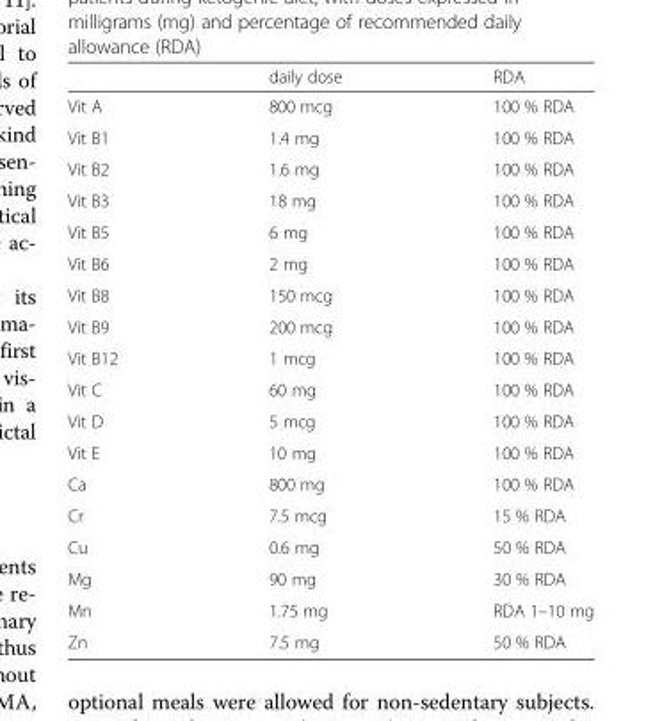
<table><thead><tr><td></td><td>daily dose</td><td>RDA</td></tr></thead><tbody><tr><td>Vit A</td><td>800 mcg</td><td>100 % RDA</td></tr><tr><td>Vit B1</td><td>1.4 mg</td><td>100 % RDA</td></tr><tr><td>Vit B2</td><td>1.6 mg</td><td>100 % RDA</td></tr><tr><td>Vit B3</td><td>18 mg</td><td>100 % RDA</td></tr><tr><td>Vit B5</td><td>6 mg</td><td>100 % RDA</td></tr><tr><td>Vit B6</td><td>2 mg</td><td>100 % RDA</td></tr><tr><td>Vit B8</td><td>150 mcg</td><td>100 % RDA</td></tr><tr><td>Vit B9</td><td>200 mcg</td><td>100 % RDA</td></tr><tr><td>Vit B12</td><td>1 mcg</td><td>100 % RDA</td></tr><tr><td>Vit C</td><td>60 mg</td><td>100 % RDA</td></tr><tr><td>Vit D</td><td>5 mcg</td><td>100 % RDA</td></tr><tr><td>Vit E</td><td>10 mg</td><td>100 % RDA</td></tr><tr><td>Ca</td><td>800 mg</td><td>100 % RDA</td></tr><tr><td>Cr</td><td>7.5 mcg</td><td>15 % RDA</td></tr><tr><td>Cu</td><td>0.6 mg</td><td>50 % RDA</td></tr><tr><td>Mg</td><td>90 mg</td><td>30 % RDA</td></tr><tr><td>Mn</td><td>1.75 mg</td><td>RDA 1–10 mg</td></tr><tr><td>Zn</td><td>7.5 mg</td><td>50 % RDA</td></tr></tbody></table>